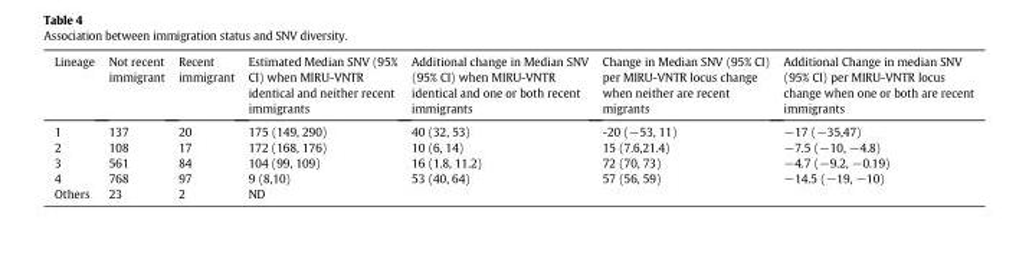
<table><thead><tr><td>Lineage</td><td>Not recent immigrant</td><td>Recent immigrant</td><td>Estimated Median SNV (95% CI) when MIRU-VNTR identical and neither recent immigrants</td><td>Additional change in Median SNV (95% CI) when MIRU-VNTR identical and one or both recent immigrants</td><td>Change in Median SNV (95% CI) per MIRU-VNTR locus change when neither are recent migrants</td><td>Additional Change in median SNV (95% CI) per MIRU-VNTR locus change when one or both are recent immigrants</td></tr></thead><tbody><tr><td>1</td><td>137</td><td>20</td><td>175 (149, 290)</td><td>40 (32, 53)</td><td>-20 (−53, 11)</td><td>−17 (−35,47)</td></tr><tr><td>2</td><td>108</td><td>17</td><td>172 (168, 176)</td><td>10 (6, 14)</td><td>15 (7.6,21.4)</td><td>−7.5 (−10, −4.8)</td></tr><tr><td>3</td><td>561</td><td>84</td><td>104 (99, 109)</td><td>16 (1.8, 11.2)</td><td>72 (70, 73)</td><td>−4.7 (−9.2, −0.19)</td></tr><tr><td>4</td><td>768</td><td>97</td><td>9 (8,10)</td><td>53 (40, 64)</td><td>57 (56, 59)</td><td>−14.5 (−19, −10)</td></tr><tr><td>Others</td><td>23</td><td>2</td><td>ND</td><td></td><td></td><td></td></tr></tbody></table>